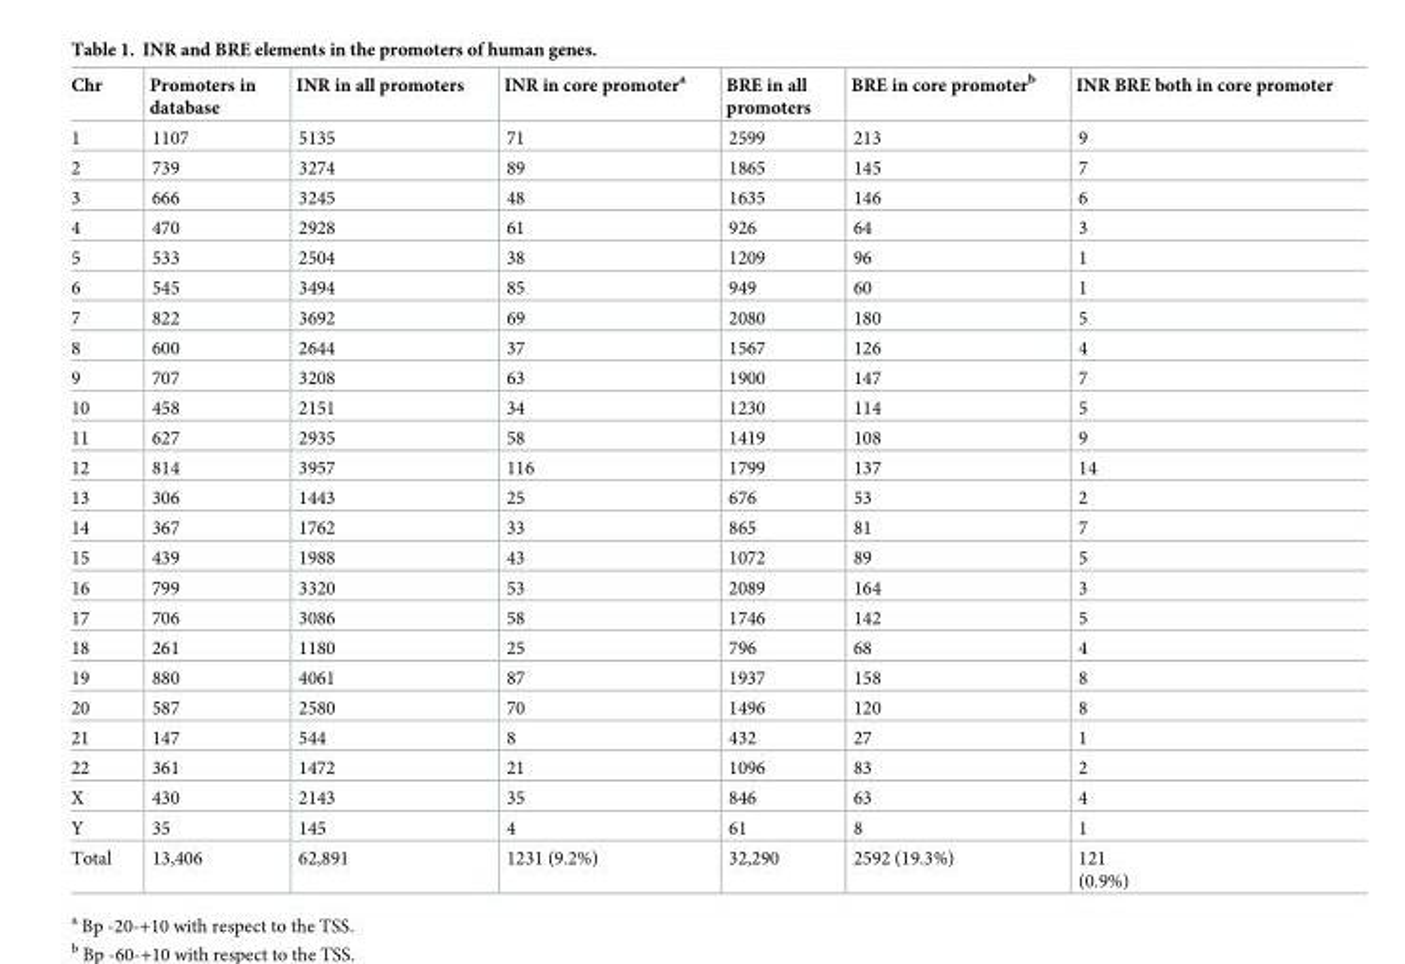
<table><thead><tr><td>Chr</td><td>Promoters in database</td><td>INR in all promoters</td><td>INR in core promoter<sup>a</sup></td><td>BRE in all promoters</td><td>BRE in core promoter<sup>b</sup></td><td>INR BRE both in core promoter</td></tr></thead><tbody><tr><td>1</td><td>1107</td><td>5135</td><td>71</td><td>2599</td><td>213</td><td>9</td></tr><tr><td>2</td><td>739</td><td>3274</td><td>89</td><td>1865</td><td>145</td><td>7</td></tr><tr><td>3</td><td>666</td><td>3245</td><td>48</td><td>1635</td><td>146</td><td>6</td></tr><tr><td>4</td><td>470</td><td>2928</td><td>61</td><td>926</td><td>64</td><td>3</td></tr><tr><td>5</td><td>533</td><td>2504</td><td>38</td><td>1209</td><td>96</td><td>1</td></tr><tr><td>6</td><td>545</td><td>3494</td><td>85</td><td>949</td><td>60</td><td>1</td></tr><tr><td>7</td><td>822</td><td>3692</td><td>69</td><td>2080</td><td>180</td><td>5</td></tr><tr><td>8</td><td>600</td><td>2644</td><td>37</td><td>1567</td><td>126</td><td>4</td></tr><tr><td>9</td><td>707</td><td>3208</td><td>63</td><td>1900</td><td>147</td><td>7</td></tr><tr><td>10</td><td>458</td><td>2151</td><td>34</td><td>1230</td><td>114</td><td>5</td></tr><tr><td>11</td><td>627</td><td>2935</td><td>58</td><td>1419</td><td>108</td><td>9</td></tr><tr><td>12</td><td>814</td><td>3957</td><td>116</td><td>1799</td><td>137</td><td>14</td></tr><tr><td>13</td><td>306</td><td>1443</td><td>25</td><td>676</td><td>53</td><td>2</td></tr><tr><td>14</td><td>367</td><td>1762</td><td>33</td><td>865</td><td>81</td><td>7</td></tr><tr><td>15</td><td>439</td><td>1988</td><td>43</td><td>1072</td><td>89</td><td>5</td></tr><tr><td>16</td><td>799</td><td>3320</td><td>53</td><td>2089</td><td>164</td><td>3</td></tr><tr><td>17</td><td>706</td><td>3086</td><td>58</td><td>1746</td><td>142</td><td>5</td></tr><tr><td>18</td><td>261</td><td>1180</td><td>25</td><td>796</td><td>68</td><td>4</td></tr><tr><td>19</td><td>880</td><td>4061</td><td>87</td><td>1937</td><td>158</td><td>8</td></tr><tr><td>20</td><td>587</td><td>2580</td><td>70</td><td>1496</td><td>120</td><td>8</td></tr><tr><td>21</td><td>147</td><td>544</td><td>8</td><td>432</td><td>27</td><td>1</td></tr><tr><td>22</td><td>361</td><td>1472</td><td>21</td><td>1096</td><td>83</td><td>2</td></tr><tr><td>X</td><td>430</td><td>2143</td><td>35</td><td>846</td><td>63</td><td>4</td></tr><tr><td>Y</td><td>35</td><td>145</td><td>4</td><td>61</td><td>8</td><td>1</td></tr><tr><td>Total</td><td>13,406</td><td>62,891</td><td>1231 (9.2%)</td><td>32,290</td><td>2592 (19.3%)</td><td>121 (0.9%)</td></tr></tbody></table>